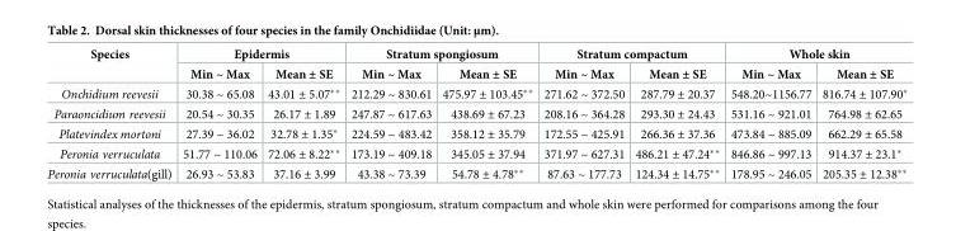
<table><thead><tr><td rowspan="2">Species</td><td colspan="2">Epidermis</td><td colspan="2">Stratum spongiosum</td><td colspan="2">Stratum compactum</td><td colspan="2">Whole skin</td></tr><tr><td>Min ~ Max</td><td>Mean ± SE</td><td>Min ~ Max</td><td>Mean ± SE</td><td>Min ~ Max</td><td>Mean ± SE</td><td>Min ~ Max</td><td>Mean ± SE</td></tr></thead><tbody><tr><td>Onchidium reevesii</td><td>30.38 ~ 65.08</td><td>43.01 ± 5.07**</td><td>212.29 ~ 830.61</td><td>475.97 ± 103.45**</td><td>271.62 ~ 372.50</td><td>287.79 ± 20.37</td><td>548.20~1156.77</td><td>816.74 ± 107.90*</td></tr><tr><td>Paraoncidium reevesii</td><td>20.54 ~ 30.35</td><td>26.17 ± 1.89</td><td>247.87 ~ 617.63</td><td>438.69 ± 67.23</td><td>208.16 ~ 364.28</td><td>293.30 ± 24.43</td><td>531.16 ~ 921.01</td><td>764.98 ± 62.65</td></tr><tr><td>Platevindex mortoni</td><td>27.39 ~ 36.02</td><td>32.78 ± 1.35*</td><td>224.59 ~ 483.42</td><td>358.12 ± 35.79</td><td>172.55 ~ 425.91</td><td>266.36 ± 37.36</td><td>473.84 ~ 885.09</td><td>662.29 ± 65.58</td></tr><tr><td>Peronia verruculata</td><td>51.77 ~ 110.06</td><td>72.06 ± 8.22**</td><td>173.19 ~ 409.18</td><td>345.05 ± 37.94</td><td>371.97 ~ 627.31</td><td>486.21 ± 47.24**</td><td>846.86 ~ 997.13</td><td>914.37 ± 23.1*</td></tr><tr><td>Peronia verruculata(gill)</td><td>26.93 ~ 53.83</td><td>37.16 ± 3.99</td><td>43.38 ~ 73.39</td><td>54.78 ± 4.78**</td><td>87.63 ~ 177.73</td><td>124.34 ± 14.75**</td><td>178.95 ~ 246.05</td><td>205.35 ± 12.38**</td></tr></tbody></table>